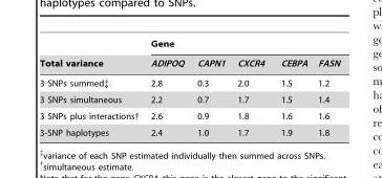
<table><thead><tr><td rowspan="2">Total variance</td><td colspan="5">Gene</td></tr><tr><td>ADIPOQ</td><td>CAPN1</td><td>CXCR4</td><td>CEBPA</td><td>FASN</td></tr></thead><tbody><tr><td>3 SNPs summed‡</td><td>2.8</td><td>0.3</td><td>2.0</td><td>1.5</td><td>1.2</td></tr><tr><td>3 SNPs simultaneous</td><td>2.2</td><td>0.7</td><td>1.7</td><td>1.5</td><td>1.4</td></tr><tr><td>3 SNPs plus interactions†</td><td>2.6</td><td>0.9</td><td>1.8</td><td>1.6</td><td>1.6</td></tr><tr><td>3-SNP haplotypes</td><td>2.4</td><td>1.0</td><td>1.7</td><td>1.9</td><td>1.8</td></tr></tbody></table>